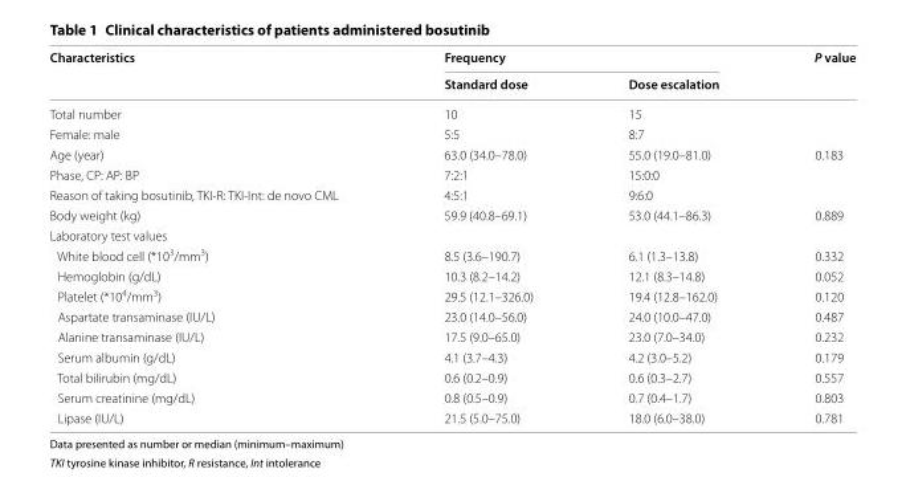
<table><thead><tr><td rowspan="2">Characteristics</td><td colspan="2">Frequency</td><td rowspan="2">P value</td></tr><tr><td>Standard dose</td><td>Dose escalation</td></tr></thead><tbody><tr><td>Total number</td><td>10</td><td>15</td><td></td></tr><tr><td>Female: male</td><td>5:5</td><td>8:7</td><td></td></tr><tr><td>Age (year)</td><td>63.0 (34.0–78.0)</td><td>55.0 (19.0–81.0)</td><td>0.183</td></tr><tr><td>Phase, CP: AP: BP</td><td>7:2:1</td><td>15:0:0</td><td></td></tr><tr><td>Reason of taking bosutinib, TKI-R: TKI-Int: de novo CML</td><td>4:5:1</td><td>9:6:0</td><td></td></tr><tr><td>Body weight (kg)</td><td>59.9 (40.8–69.1)</td><td>53.0 (44.1–86.3)</td><td>0.889</td></tr><tr><td colspan="4">Laboratory test values</td></tr><tr><td>White blood cell (*10<sup>3</sup>/mm<sup>3</sup>)</td><td>8.5 (3.6–190.7)</td><td>6.1 (1.3–13.8)</td><td>0.332</td></tr><tr><td>Hemoglobin (g/dL)</td><td>10.3 (8.2–14.2)</td><td>12.1 (8.3–14.8)</td><td>0.052</td></tr><tr><td>Platelet (*10<sup>4</sup>/mm<sup>3</sup>)</td><td>29.5 (12.1–326.0)</td><td>19.4 (12.8–162.0)</td><td>0.120</td></tr><tr><td>Aspartate transaminase (IU/L)</td><td>23.0 (14.0–56.0)</td><td>24.0 (10.0–47.0)</td><td>0.487</td></tr><tr><td>Alanine transaminase (IU/L)</td><td>17.5 (9.0–65.0)</td><td>23.0 (7.0–34.0)</td><td>0.232</td></tr><tr><td>Serum albumin (g/dL)</td><td>4.1 (3.7–4.3)</td><td>4.2 (3.0–5.2)</td><td>0.179</td></tr><tr><td>Total bilirubin (mg/dL)</td><td>0.6 (0.2–0.9)</td><td>0.6 (0.3–2.7)</td><td>0.557</td></tr><tr><td>Serum creatinine (mg/dL)</td><td>0.8 (0.5–0.9)</td><td>0.7 (0.4–1.7)</td><td>0.803</td></tr><tr><td>Lipase (IU/L)</td><td>21.5 (5.0–75.0)</td><td>18.0 (6.0–38.0)</td><td>0.781</td></tr></tbody></table>